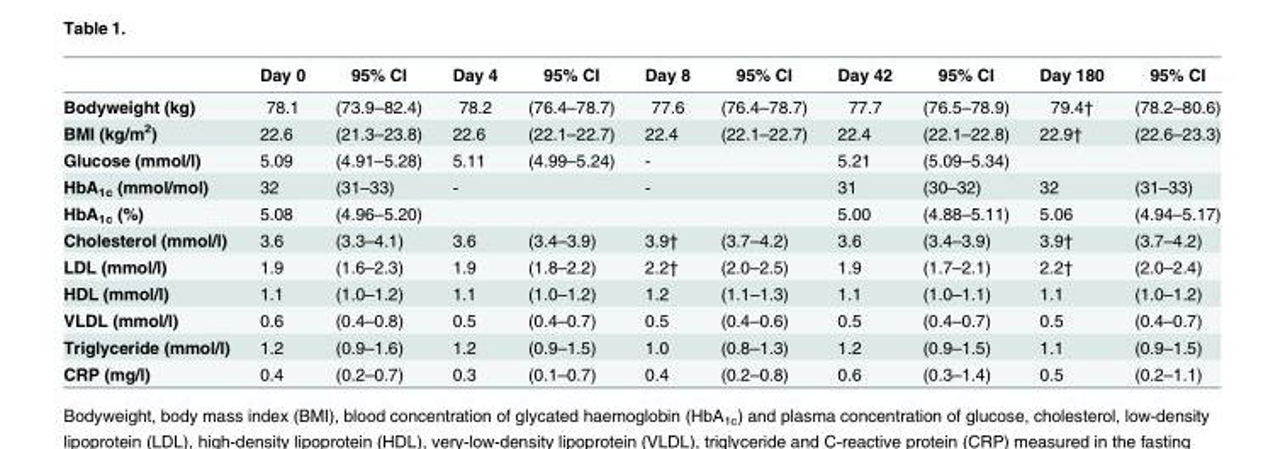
<table><thead><tr><td></td><td>Day 0</td><td>95% CI</td><td>Day 4</td><td>95% CI</td><td>Day 8</td><td>95% CI</td><td>Day 42</td><td>95% CI</td><td>Day 180</td><td>95% CI</td></tr></thead><tbody><tr><td>Bodyweight (kg)</td><td>78.1</td><td>(73.9–82.4)</td><td>78.2</td><td>(76.4–78.7)</td><td>77.6</td><td>(76.4–78.7)</td><td>77.7</td><td>(76.5–78.9)</td><td>79.4†</td><td>(78.2–80.6)</td></tr><tr><td>BMI (kg/m<sup>2</sup>)</td><td>22.6</td><td>(21.3–23.8)</td><td>22.6</td><td>(22.1–22.7)</td><td>22.4</td><td>(22.1–22.7)</td><td>22.4</td><td>(22.1–22.8)</td><td>22.9†</td><td>(22.6–23.3)</td></tr><tr><td>Glucose (mmol/l)</td><td>5.09</td><td>(4.91–5.28)</td><td>5.11</td><td>(4.99–5.24)</td><td>-</td><td></td><td>5.21</td><td>(5.09–5.34)</td><td></td><td></td></tr><tr><td>HbA<sub>1c</sub> (mmol/mol)</td><td>32</td><td>(31–33)</td><td>-</td><td></td><td>-</td><td></td><td>31</td><td>(30–32)</td><td>32</td><td>(31–33)</td></tr><tr><td>HbA<sub>1c</sub> (%)</td><td>5.08</td><td>(4.96–5.20)</td><td></td><td></td><td></td><td></td><td>5.00</td><td>(4.88–5.11)</td><td>5.06</td><td>(4.94–5.17)</td></tr><tr><td>Cholesterol (mmol/l)</td><td>3.6</td><td>(3.3–4.1)</td><td>3.6</td><td>(3.4–3.9)</td><td>3.9†</td><td>(3.7–4.2)</td><td>3.6</td><td>(3.4–3.9)</td><td>3.9†</td><td>(3.7–4.2)</td></tr><tr><td>LDL (mmol/l)</td><td>1.9</td><td>(1.6–2.3)</td><td>1.9</td><td>(1.8–2.2)</td><td>2.2†</td><td>(2.0–2.5)</td><td>1.9</td><td>(1.7–2.1)</td><td>2.2†</td><td>(2.0–2.4)</td></tr><tr><td>HDL (mmol/l)</td><td>1.1</td><td>(1.0–1.2)</td><td>1.1</td><td>(1.0–1.2)</td><td>1.2</td><td>(1.1–1.3)</td><td>1.1</td><td>(1.0–1.1)</td><td>1.1</td><td>(1.0–1.2)</td></tr><tr><td>VLDL (mmol/l)</td><td>0.6</td><td>(0.4–0.8)</td><td>0.5</td><td>(0.4–0.7)</td><td>0.5</td><td>(0.4–0.6)</td><td>0.5</td><td>(0.4–0.7)</td><td>0.5</td><td>(0.4–0.7)</td></tr><tr><td>Triglyceride (mmol/l)</td><td>1.2</td><td>(0.9–1.6)</td><td>1.2</td><td>(0.9–1.5)</td><td>1.0</td><td>(0.8–1.3)</td><td>1.2</td><td>(0.9–1.5)</td><td>1.1</td><td>(0.9–1.5)</td></tr><tr><td>CRP (mg/l)</td><td>0.4</td><td>(0.2–0.7)</td><td>0.3</td><td>(0.1–0.7)</td><td>0.4</td><td>(0.2–0.8)</td><td>0.6</td><td>(0.3–1.4)</td><td>0.5</td><td>(0.2–1.1)</td></tr></tbody></table>